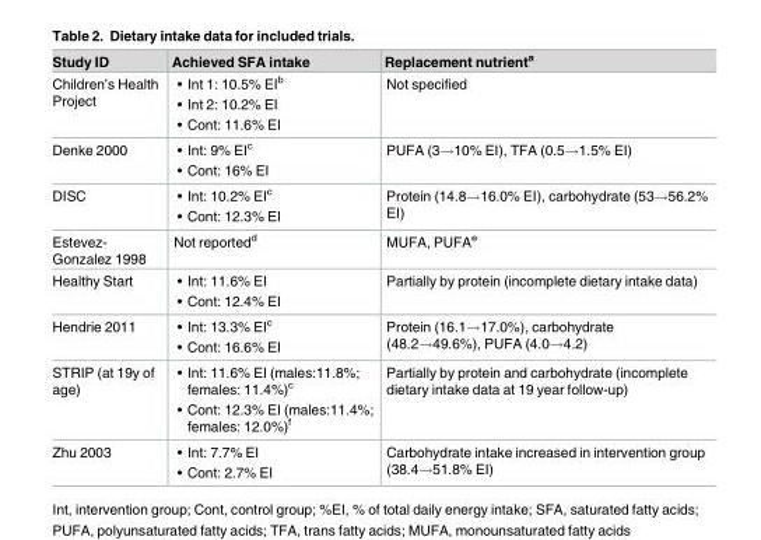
<table><thead><tr><td>Study ID</td><td>Achieved SFA intake</td><td>Replacement nutrient<sup>a</sup></td></tr></thead><tbody><tr><td>Children’s Health Project</td><td>• Int 1: 10.5% EIb • Int 2: 10.2% EI • Cont: 11.6% EI</td><td>Not specified</td></tr><tr><td>Denke 2000</td><td>• Int: 9% EIc • Cont: 16% EI</td><td>PUFA (3→10% EI), TFA (0.5→1.5% EI)</td></tr><tr><td>DISC</td><td>• Int: 10.2% EIc • Cont: 12.3% EI</td><td>Protein (14.8→16.0% EI), carbohydrate (53→56.2% EI)</td></tr><tr><td>Estevez- Gonzalez 1998</td><td>Not reported<sup>d</sup></td><td>MUFA, PUFA<sup>e</sup></td></tr><tr><td>Healthy Start</td><td>• Int: 11.6% EI • Cont: 12.4% EI</td><td>Partially by protein (incomplete dietary intake data)</td></tr><tr><td>Hendrie 2011</td><td>• Int: 13.3% EIc • Cont: 16.6% EI</td><td>Protein (16.1→17.0%), carbohydrate (48.2→49.6%), PUFA (4.0→4.2)</td></tr><tr><td>STRIP (at 19y of age)</td><td>• Int: 11.6% EI (males:11.8%; females: 11.4%)c • Cont: 12.3% EI (males:11.4%; females: 12.0%)f</td><td>Partially by protein and carbohydrate (incomplete dietary intake data at 19 year follow-up)</td></tr><tr><td>Zhu 2003</td><td>• Int: 7.7% EI • Cont: 2.7% EI</td><td>Carbohydrate intake increased in intervention group (38.4→51.8% EI)</td></tr></tbody></table>